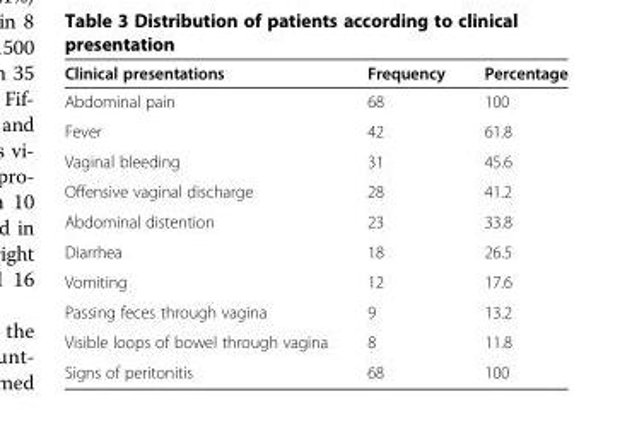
<table><thead><tr><td>Clinical presentations</td><td>Frequency</td><td>Percentage</td></tr></thead><tbody><tr><td>Abdominal pain</td><td>68</td><td>100</td></tr><tr><td>Fever</td><td>42</td><td>61.8</td></tr><tr><td>Vaginal bleeding</td><td>31</td><td>45.6</td></tr><tr><td>Offensive vaginal discharge</td><td>28</td><td>41.2</td></tr><tr><td>Abdominal distention</td><td>23</td><td>33.8</td></tr><tr><td>Diarrhea</td><td>18</td><td>26.5</td></tr><tr><td>Vomiting</td><td>12</td><td>17.6</td></tr><tr><td>Passing feces through vagina</td><td>9</td><td>13.2</td></tr><tr><td>Visible loops of bowel through vagina</td><td>8</td><td>11.8</td></tr><tr><td>Signs of peritonitis</td><td>68</td><td>100</td></tr></tbody></table>